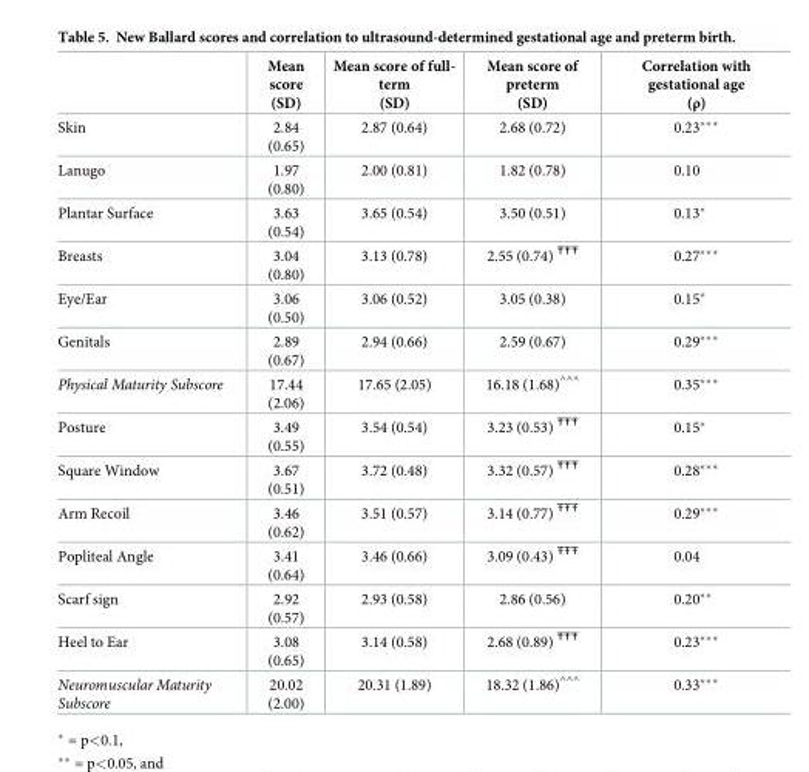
<table><thead><tr><td></td><td>Mean score (SD)</td><td>Mean score of full- term (SD)</td><td>Mean score of preterm (SD)</td><td>Correlation with gestational age (ρ)</td></tr></thead><tbody><tr><td>Skin</td><td>2.84 (0.65)</td><td>2.87 (0.64)</td><td>2.68 (0.72)</td><td>0.23***</td></tr><tr><td>Lanugo</td><td>1.97 (0.80)</td><td>2.00 (0.81)</td><td>1.82 (0.78)</td><td>0.10</td></tr><tr><td>Plantar Surface</td><td>3.63 (0.54)</td><td>3.65 (0.54)</td><td>3.50 (0.51)</td><td>0.13*</td></tr><tr><td>Breasts</td><td>3.04 (0.80)</td><td>3.13 (0.78)</td><td>2.55 (0.74) <sup>ŦŦŦ</sup></td><td>0.27***</td></tr><tr><td>Eye/Ear</td><td>3.06 (0.50)</td><td>3.06 (0.52)</td><td>3.05 (0.38)</td><td>0.15*</td></tr><tr><td>Genitals</td><td>2.89 (0.67)</td><td>2.94 (0.66)</td><td>2.59 (0.67)</td><td>0.29***</td></tr><tr><td>Physical Maturity Subscore</td><td>17.44 (2.06)</td><td>17.65 (2.05)</td><td>16.18 (1.68)^^^</td><td>0.35***</td></tr><tr><td>Posture</td><td>3.49 (0.55)</td><td>3.54 (0.54)</td><td>3.23 (0.53) <sup>ŦŦŦ</sup></td><td>0.15*</td></tr><tr><td>Square Window</td><td>3.67 (0.51)</td><td>3.72 (0.48)</td><td>3.32 (0.57) <sup>ŦŦŦ</sup></td><td>0.28***</td></tr><tr><td>Arm Recoil</td><td>3.46 (0.62)</td><td>3.51 (0.57)</td><td>3.14 (0.77) <sup>ŦŦŦ</sup></td><td>0.29***</td></tr><tr><td>Popliteal Angle</td><td>3.41 (0.64)</td><td>3.46 (0.66)</td><td>3.09 (0.43) <sup>ŦŦŦ</sup></td><td>0.04</td></tr><tr><td>Scarf sign</td><td>2.92 (0.57)</td><td>2.93 (0.58)</td><td>2.86 (0.56)</td><td>0.20**</td></tr><tr><td>Heel to Ear</td><td>3.08 (0.65)</td><td>3.14 (0.58)</td><td>2.68 (0.89) <sup>ŦŦŦ</sup></td><td>0.23***</td></tr><tr><td>Neuromuscular Maturity Subscore</td><td>20.02 (2.00)</td><td>20.31 (1.89)</td><td>18.32 (1.86)^^^</td><td>0.33***</td></tr></tbody></table>